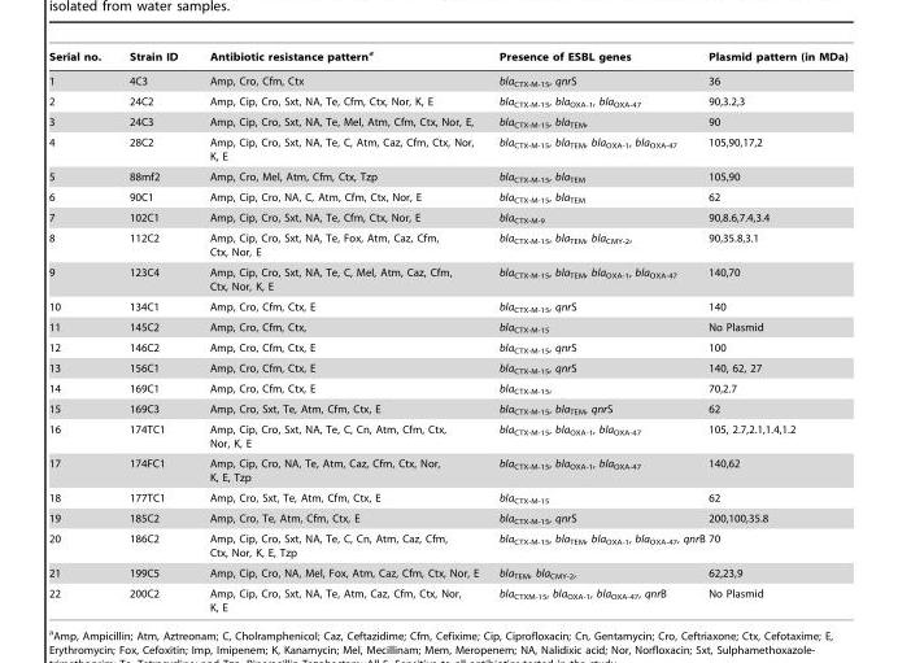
<table><thead><tr><td>Serial no.</td><td>Strain ID</td><td>Antibiotic resistance pattern<sup>a</sup></td><td>Presence of ESBL genes</td><td>Plasmid pattern (in MDa)</td></tr></thead><tbody><tr><td>1</td><td>4C3</td><td>Amp, Cro, Cfm, Ctx</td><td>bla<sub>CTX-M-15</sub>, qnrS</td><td>36</td></tr><tr><td>2</td><td>24C2</td><td>Amp, Cip, Cro, Sxt, NA, Te, Cfm, Ctx, Nor, K, E</td><td>bla<sub>CTX-M-15</sub>, bla<sub>OXA-1</sub>, bla<sub>OXA-47</sub></td><td>90,3.2,3</td></tr><tr><td>3</td><td>24C3</td><td>Amp, Cip, Cro, Sxt, NA, Te, Mel, Atm, Cfm, Ctx, Nor, E,</td><td>bla<sub>CTX-M-15</sub>, bla<sub>TEM</sub>,</td><td>90</td></tr><tr><td>4</td><td>28C2</td><td>Amp, Cip, Cro, Sxt, NA, Te, C, Atm, Caz, Cfm, Ctx, Nor, K, E</td><td>bla<sub>CTX-M-15</sub>, bla<sub>TEM</sub>, bla<sub>OXA-1</sub>, bla<sub>OXA-47</sub></td><td>105,90,17,2</td></tr><tr><td>5</td><td>88mf2</td><td>Amp, Cro, Mel, Atm, Cfm, Ctx, Tzp</td><td>bla<sub>CTX-M-15</sub>, bla<sub>TEM</sub></td><td>105,90</td></tr><tr><td>6</td><td>90C1</td><td>Amp, Cip, Cro, NA, C, Atm, Cfm, Ctx, Nor, E</td><td>bla<sub>CTX-M-15</sub>, bla<sub>TEM</sub></td><td>62</td></tr><tr><td>7</td><td>102C1</td><td>Amp, Cip, Cro, Sxt, NA, Te, Cfm, Ctx, Nor, E</td><td>bla<sub>CTX-M-9</sub></td><td>90,8.6,7.4,3.4</td></tr><tr><td>8</td><td>112C2</td><td>Amp, Cip, Cro, Sxt, NA, Te, Fox, Atm, Caz, Cfm, Ctx, Nor, E</td><td>bla<sub>CTX-M-15</sub>, bla<sub>TEM</sub>, bla<sub>CMY-2</sub>,</td><td>90,35.8,3.1</td></tr><tr><td>9</td><td>123C4</td><td>Amp, Cip, Cro, Sxt, NA, Te, C, Mel, Atm, Caz, Cfm, Ctx, Nor, K, E</td><td>bla<sub>CTX-M-15</sub>, bla<sub>TEM</sub>, bla<sub>OXA-1</sub>, bla<sub>OXA-47</sub></td><td>140,70</td></tr><tr><td>10</td><td>134C1</td><td>Amp, Cro, Cfm, Ctx, E</td><td>bla<sub>CTX-M-15</sub>, qnrS</td><td>140</td></tr><tr><td>11</td><td>145C2</td><td>Amp, Cro, Cfm, Ctx,</td><td>bla<sub>CTX-M-15</sub></td><td>No Plasmid</td></tr><tr><td>12</td><td>146C2</td><td>Amp, Cro, Cfm, Ctx, E</td><td>bla<sub>CTX-M-15</sub>, qnrS</td><td>100</td></tr><tr><td>13</td><td>156C1</td><td>Amp, Cro, Cfm, Ctx, E</td><td>bla<sub>CTX-M-15</sub>, qnrS</td><td>140, 62, 27</td></tr><tr><td>14</td><td>169C1</td><td>Amp, Cro, Cfm, Ctx, E</td><td>bla<sub>CTX-M-15</sub>,</td><td>70,2.7</td></tr><tr><td>15</td><td>169C3</td><td>Amp, Cro, Sxt, Te, Atm, Cfm, Ctx, E</td><td>bla<sub>CTX-M-15</sub>, bla<sub>TEM</sub>, qnrS</td><td>62</td></tr><tr><td>16</td><td>174TC1</td><td>Amp, Cip, Cro, Sxt, NA, Te, C, Cn, Atm, Cfm, Ctx, Nor, K, E</td><td>bla<sub>CTX-M-15</sub>, bla<sub>OXA-1</sub>, bla<sub>OXA-47</sub></td><td>105, 2.7,2.1,1.4,1.2</td></tr><tr><td>17</td><td>174FC1</td><td>Amp, Cip, Cro, NA, Te, Atm, Caz, Cfm, Ctx, Nor, K, E, Tzp</td><td>bla<sub>CTX-M-15</sub>, bla<sub>OXA-1</sub>, bla<sub>OXA-47</sub></td><td>140,62</td></tr><tr><td>18</td><td>177TC1</td><td>Amp, Cro, Sxt, Te, Atm, Cfm, Ctx, E</td><td>bla<sub>CTX-M-15</sub></td><td>62</td></tr><tr><td>19</td><td>185C2</td><td>Amp, Cro, Te, Atm, Cfm, Ctx, E</td><td>bla<sub>CTX-M-15</sub>, qnrS</td><td>200,100,35.8</td></tr><tr><td>20</td><td>186C2</td><td>Amp, Cip, Cro, Sxt, NA, Te, C, Cn, Atm, Caz, Cfm, Ctx, Nor, K, E, Tzp</td><td>bla<sub>CTX-M-15</sub>, bla<sub>TEM</sub>, bla<sub>OXA-1</sub>, bla<sub>OXA-47</sub>, qnrB</td><td>70</td></tr><tr><td>21</td><td>199C5</td><td>Amp, Cip, Cro, NA, Mel, Fox, Atm, Caz, Cfm, Ctx, Nor, E</td><td>bla<sub>TEM</sub>, bla<sub>CMY-2</sub>,</td><td>62,23,9</td></tr><tr><td>22</td><td>200C2</td><td>Amp, Cip, Cro, Sxt, NA, Te, Atm, Caz, Cfm, Ctx, Nor, K, E</td><td>bla<sub>CTXM-15</sub>, bla<sub>OXA-1</sub>, bla<sub>OXA-47</sub>, qnrB</td><td>No Plasmid</td></tr></tbody></table>